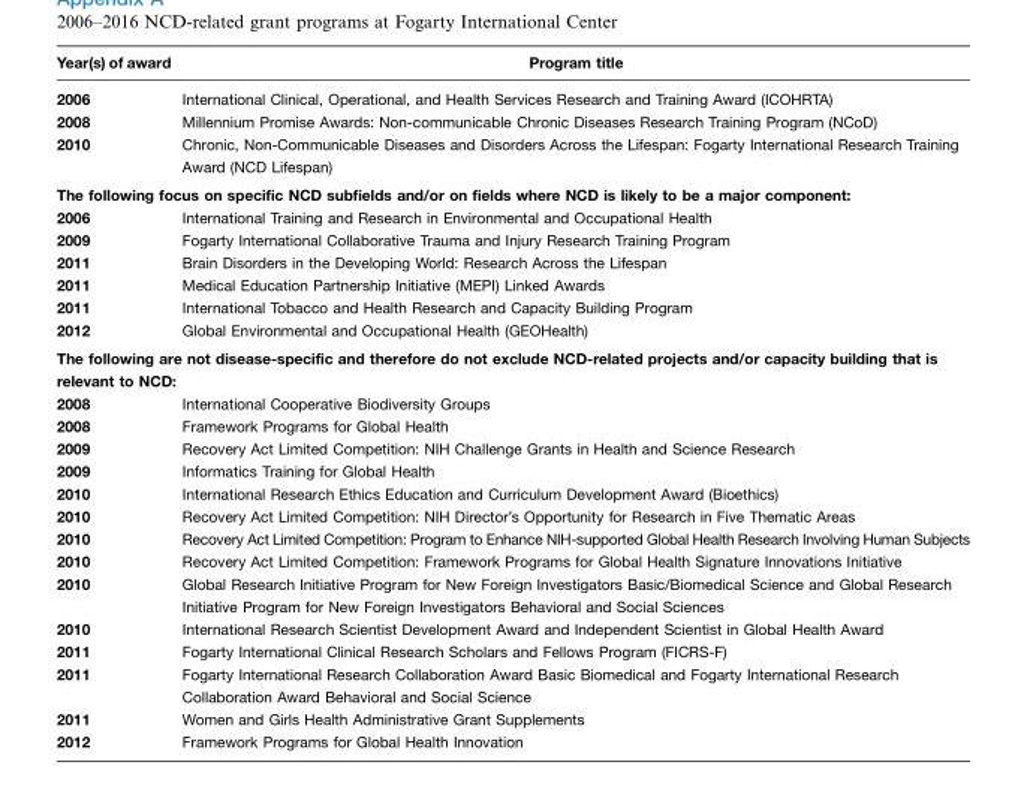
<table><thead><tr><td>Year(s) of award</td><td>Program title</td></tr></thead><tbody><tr><td>2006</td><td>International Clinical, Operational, and Health Services Research and Training Award (ICOHRTA)</td></tr><tr><td>2008</td><td>Millennium Promise Awards: Non-communicable Chronic Diseases Research Training Program (NCoD)</td></tr><tr><td>2010</td><td>Chronic, Non-Communicable Diseases and Disorders Across the Lifespan: Fogarty International Research Training Award (NCD Lifespan)</td></tr><tr><td colspan="2">The following focus on specific NCD subfields and/or on fields where NCD is likely to be a major component:</td></tr><tr><td>2006</td><td>International Training and Research in Environmental and Occupational Health</td></tr><tr><td>2009</td><td>Fogarty International Collaborative Trauma and Injury Research Training Program</td></tr><tr><td>2011</td><td>Brain Disorders in the Developing World: Research Across the Lifespan</td></tr><tr><td>2011</td><td>Medical Education Partnership Initiative (MEPI) Linked Awards</td></tr><tr><td>2011</td><td>International Tobacco and Health Research and Capacity Building Program</td></tr><tr><td>2012</td><td>Global Environmental and Occupational Health (GEOHealth)</td></tr><tr><td colspan="2">The following are not disease-specific and therefore do not exclude NCD-related projects and/or capacity building that is relevant to NCD:</td></tr><tr><td>2008</td><td>International Cooperative Biodiversity Groups</td></tr><tr><td>2008</td><td>Framework Programs for Global Health</td></tr><tr><td>2009</td><td>Recovery Act Limited Competition: NIH Challenge Grants in Health and Science Research</td></tr><tr><td>2009</td><td>Informatics Training for Global Health</td></tr><tr><td>2010</td><td>International Research Ethics Education and Curriculum Development Award (Bioethics)</td></tr><tr><td>2010</td><td>Recovery Act Limited Competition: NIH Director’s Opportunity for Research in Five Thematic Areas</td></tr><tr><td>2010</td><td>Recovery Act Limited Competition: Program to Enhance NIH-supported Global Health Research Involving Human Subjects</td></tr><tr><td>2010</td><td>Recovery Act Limited Competition: Framework Programs for Global Health Signature Innovations Initiative</td></tr><tr><td>2010</td><td>Global Research Initiative Program for New Foreign Investigators Basic/Biomedical Science and Global Research Initiative Program for New Foreign Investigators Behavioral and Social Sciences</td></tr><tr><td>2010</td><td>International Research Scientist Development Award and Independent Scientist in Global Health Award</td></tr><tr><td>2011</td><td>Fogarty International Clinical Research Scholars and Fellows Program (FICRS-F)</td></tr><tr><td>2011</td><td>Fogarty International Research Collaboration Award Basic Biomedical and Fogarty International Research Collaboration Award Behavioral and Social Science</td></tr><tr><td>2011</td><td>Women and Girls Health Administrative Grant Supplements</td></tr><tr><td>2012</td><td>Framework Programs for Global Health Innovation</td></tr></tbody></table>